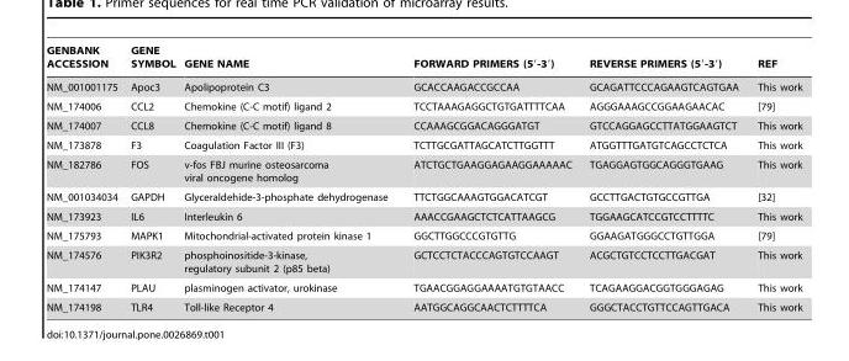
<table><thead><tr><td>GENBANK ACCESSION</td><td>GENE SYMBOL</td><td>GENE NAME</td><td>FORWARD PRIMERS (5′-3′)</td><td>REVERSE PRIMERS (5′-3′)</td><td>REF</td></tr></thead><tbody><tr><td>NM_001001175</td><td>Apoc3</td><td>Apolipoprotein C3</td><td>GCACCAAGACCGCCAA</td><td>GCAGATTCCCAGAAGTCAGTGAA</td><td>This work</td></tr><tr><td>NM_174006</td><td>CCL2</td><td>Chemokine (C-C motif) ligand 2</td><td>TCCTAAAGAGGCTGTGATTTTCAA</td><td>AGGGAAAGCCGGAAGAACAC</td><td>[79]</td></tr><tr><td>NM_174007</td><td>CCL8</td><td>Chemokine (C-C motif) ligand 8</td><td>CCAAAGCGGACAGGGATGT</td><td>GTCCAGGAGCCTTATGGAAGTCT</td><td>This work</td></tr><tr><td>NM_173878</td><td>F3</td><td>Coagulation Factor III (F3)</td><td>TCTTGCGATTAGCATCTTGGTTT</td><td>ATGGTTTGATGTCAGCCTCTCA</td><td>This work</td></tr><tr><td>NM_182786</td><td>FOS</td><td>v-fos FBJ murine osteosarcoma viral oncogene homolog</td><td>ATCTGCTGAAGGAGAAGGAAAAAC</td><td>TGAGGAGTGGCAGGGTGAAG</td><td>This work</td></tr><tr><td>NM_001034034</td><td>GAPDH</td><td>Glyceraldehide-3-phosphate dehydrogenase</td><td>TTCTGGCAAAGTGGACATCGT</td><td>GCCTTGACTGTGCCGTTGA</td><td>[32]</td></tr><tr><td>NM_173923</td><td>IL6</td><td>Interleukin 6</td><td>AAACCGAAGCTCTCATTAAGCG</td><td>TGGAAGCATCCGTCCTTTTC</td><td>This work</td></tr><tr><td>NM_175793</td><td>MAPK1</td><td>Mitochondrial-activated protein kinase 1</td><td>GGCTTGGCCCGTGTTG</td><td>GGAAGATGGGCCTGTTGGA</td><td>[79]</td></tr><tr><td>NM_174576</td><td>PIK3R2</td><td>phosphoinositide-3-kinase, regulatory subunit 2 (p85 beta)</td><td>GCTCCTCTACCCAGTGTCCAAGT</td><td>ACGCTGTCCTCCTTGACGAT</td><td>This work</td></tr><tr><td>NM_174147</td><td>PLAU</td><td>plasminogen activator, urokinase</td><td>TGAACGGAGGAAAATGTGTAACC</td><td>TCAGAAGGACGGTGGGAGAG</td><td>This work</td></tr><tr><td>NM_174198</td><td>TLR4</td><td>Toll-like Receptor 4</td><td>AATGGCAGGCAACTCTTTTCA</td><td>GGGCTACCTGTTCCAGTTGACA</td><td>This work</td></tr></tbody></table>